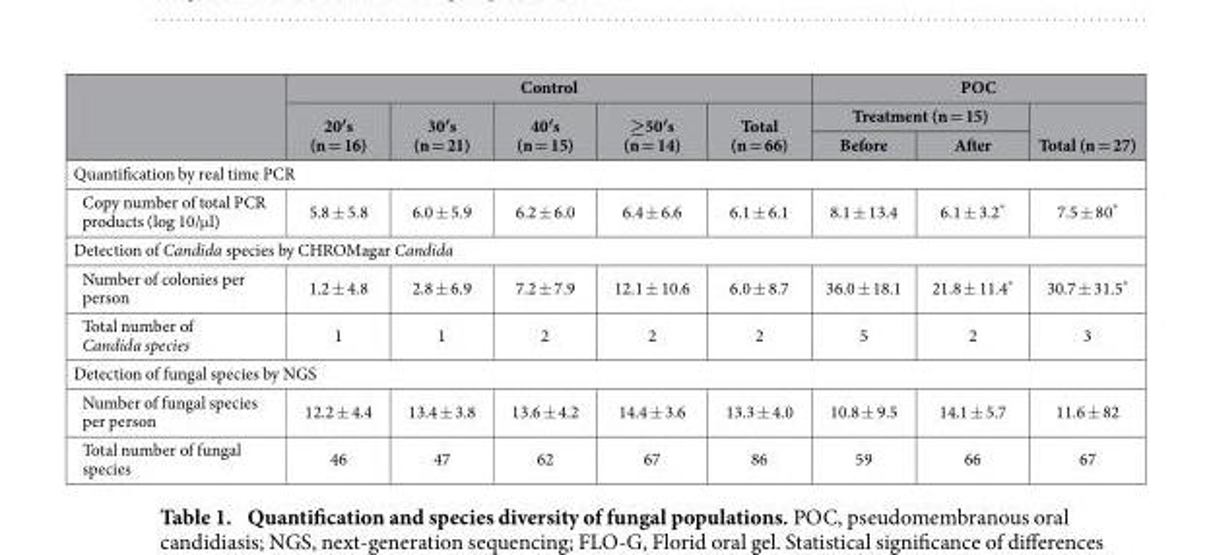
<table><thead><tr><td rowspan="3"></td><td colspan="5">Control</td><td colspan="3">POC</td></tr><tr><td rowspan="2">20′s (n = 16)</td><td rowspan="2">30′s (n = 21)</td><td rowspan="2">40′s (n = 15)</td><td rowspan="2">≥50′s (n = 14)</td><td rowspan="2">Total (n = 66)</td><td colspan="2">Treatment (n = 15)</td><td rowspan="2">Total (n = 27)</td></tr><tr><td>Before</td><td>After</td></tr></thead><tbody><tr><td colspan="9">Quantification by real time PCR</td></tr><tr><td>Copy number of total PCR products (log 10/μ l)</td><td>5.8 ± 5.8</td><td>6.0 ± 5.9</td><td>6.2 ± 6.0</td><td>6.4 ± 6.6</td><td>6.1 ± 6.1</td><td>8.1 ± 13.4</td><td>6.1 ± 3.2*</td><td>7.5 ± 80*</td></tr><tr><td colspan="9">Detection of Candida species by CHROMagar Candida</td></tr><tr><td>Number of colonies per person</td><td>1.2 ± 4.8</td><td>2.8 ± 6.9</td><td>7.2 ± 7.9</td><td>12.1 ± 10.6</td><td>6.0 ± 8.7</td><td>36.0 ± 18.1</td><td>21.8 ± 11.4*</td><td>30.7 ± 31.5*</td></tr><tr><td>Total number of Candida species</td><td>1</td><td>1</td><td>2</td><td>2</td><td>2</td><td>5</td><td>2</td><td>3</td></tr><tr><td colspan="9">Detection of fungal species by NGS</td></tr><tr><td>Number of fungal species per person</td><td>12.2 ± 4.4</td><td>13.4 ± 3.8</td><td>13.6 ± 4.2</td><td>14.4 ± 3.6</td><td>13.3 ± 4.0</td><td>10.8 ± 9.5</td><td>14.1 ± 5.7</td><td>11.6 ± 82</td></tr><tr><td>Total number of fungal species</td><td>46</td><td>47</td><td>62</td><td>67</td><td>86</td><td>59</td><td>66</td><td>67</td></tr></tbody></table>